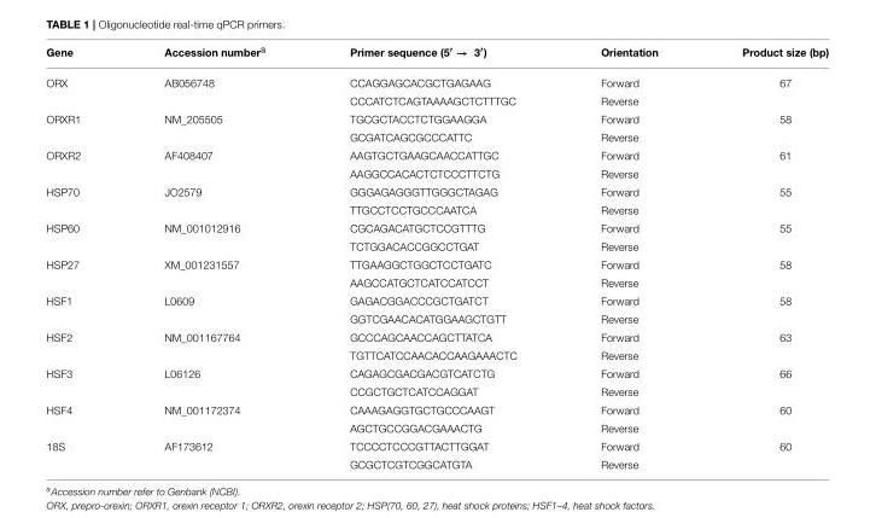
<table><thead><tr><td>Gene</td><td>Accession number<sup>a</sup></td><td>Primer sequence (5′ → 3′)</td><td>Orientation</td><td>Product size (bp)</td></tr></thead><tbody><tr><td rowspan="2">ORX</td><td>AB056748</td><td>CCAGGAGCACGCTGAGAAG</td><td>Forward</td><td>67</td></tr><tr><td></td><td>CCCATCTCAGTAAAAGCTCTTTGC</td><td>Reverse</td><td></td></tr><tr><td rowspan="2">ORXR1</td><td>NM_205505</td><td>TGCGCTACCTCTGGAAGGA</td><td>Forward</td><td>58</td></tr><tr><td></td><td>GCGATCAGCGCCCATTC</td><td>Reverse</td><td></td></tr><tr><td rowspan="2">ORXR2</td><td>AF408407</td><td>AAGTGCTGAAGCAACCATTGC</td><td>Forward</td><td>61</td></tr><tr><td></td><td>AAGGCCACACTCTCCCTTCTG</td><td>Reverse</td><td></td></tr><tr><td rowspan="2">HSP70</td><td>JO2579</td><td>GGGAGAGGGTTGGGCTAGAG</td><td>Forward</td><td>55</td></tr><tr><td></td><td>TTGCCTCCTGCCCAATCA</td><td>Reverse</td><td></td></tr><tr><td rowspan="2">HSP60</td><td>NM_001012916</td><td>CGCAGACATGCTCCGTTTG</td><td>Forward</td><td>55</td></tr><tr><td></td><td>TCTGGACACCGGCCTGAT</td><td>Reverse</td><td></td></tr><tr><td rowspan="2">HSP27</td><td>XM_001231557</td><td>TTGAAGGCTGGCTCCTGATC</td><td>Forward</td><td>58</td></tr><tr><td></td><td>AAGCCATGCTCATCCATCCT</td><td>Reverse</td><td></td></tr><tr><td rowspan="2">HSF1</td><td>L0609</td><td>GAGACGGACCCGCTGATCT</td><td>Forward</td><td>58</td></tr><tr><td></td><td>GGTCGAACACATGGAAGCTGTT</td><td>Reverse</td><td></td></tr><tr><td rowspan="2">HSF2</td><td>NM_001167764</td><td>GCCCAGCAACCAGCTTATCA</td><td>Forward</td><td>63</td></tr><tr><td></td><td>TGTTCATCCAACACCAAGAAACTC</td><td>Reverse</td><td></td></tr><tr><td rowspan="2">HSF3</td><td>L06126</td><td>CAGAGCGACGACGTCATCTG</td><td>Forward</td><td>66</td></tr><tr><td></td><td>CCGCTGCTCATCCAGGAT</td><td>Reverse</td><td></td></tr><tr><td rowspan="2">HSF4</td><td>NM_001172374</td><td>CAAAGAGGTGCTGCCCAAGT</td><td>Forward</td><td>60</td></tr><tr><td></td><td>AGCTGCCGGACGAAACTG</td><td>Reverse</td><td></td></tr><tr><td rowspan="2">18S</td><td>AF173612</td><td>TCCCCTCCCGTTACTTGGAT</td><td>Forward</td><td>60</td></tr><tr><td></td><td>GCGCTCGTCGGCATGTA</td><td>Reverse</td><td></td></tr></tbody></table>